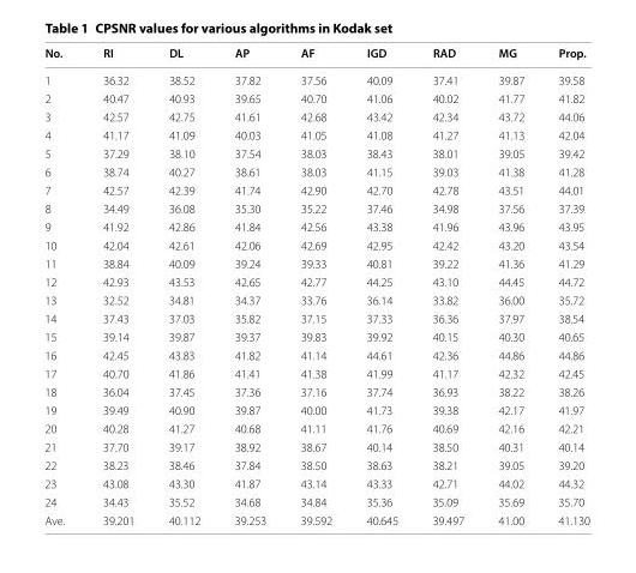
<table><thead><tr><td>No.</td><td>RI</td><td>DL</td><td>AP</td><td>AF</td><td>IGD</td><td>RAD</td><td>MG</td><td>Prop.</td></tr></thead><tbody><tr><td>1</td><td>36.32</td><td>38.52</td><td>37.82</td><td>37.56</td><td>40.09</td><td>37.41</td><td>39.87</td><td>39.58</td></tr><tr><td>2</td><td>40.47</td><td>40.93</td><td>39.65</td><td>40.70</td><td>41.06</td><td>40.02</td><td>41.77</td><td>41.82</td></tr><tr><td>3</td><td>42.57</td><td>42.75</td><td>41.61</td><td>42.68</td><td>43.42</td><td>42.34</td><td>43.72</td><td>44.06</td></tr><tr><td>4</td><td>41.17</td><td>41.09</td><td>40.03</td><td>41.05</td><td>41.08</td><td>41.27</td><td>41.13</td><td>42.04</td></tr><tr><td>5</td><td>37.29</td><td>38.10</td><td>37.54</td><td>38.03</td><td>38.43</td><td>38.01</td><td>39.05</td><td>39.42</td></tr><tr><td>6</td><td>38.74</td><td>40.27</td><td>38.61</td><td>38.03</td><td>41.15</td><td>39.03</td><td>41.38</td><td>41.28</td></tr><tr><td>7</td><td>42.57</td><td>42.39</td><td>41.74</td><td>42.90</td><td>42.70</td><td>42.78</td><td>43.51</td><td>44.01</td></tr><tr><td>8</td><td>34.49</td><td>36.08</td><td>35.30</td><td>35.22</td><td>37.46</td><td>34.98</td><td>37.56</td><td>37.39</td></tr><tr><td>9</td><td>41.92</td><td>42.86</td><td>41.84</td><td>42.56</td><td>43.38</td><td>41.96</td><td>43.96</td><td>43.95</td></tr><tr><td>10</td><td>42.04</td><td>42.61</td><td>42.06</td><td>42.69</td><td>42.95</td><td>42.42</td><td>43.20</td><td>43.54</td></tr><tr><td>11</td><td>38.84</td><td>40.09</td><td>39.24</td><td>39.33</td><td>40.81</td><td>39.22</td><td>41.36</td><td>41.29</td></tr><tr><td>12</td><td>42.93</td><td>43.53</td><td>42.65</td><td>42.77</td><td>44.25</td><td>43.10</td><td>44.45</td><td>44.72</td></tr><tr><td>13</td><td>32.52</td><td>34.81</td><td>34.37</td><td>33.76</td><td>36.14</td><td>33.82</td><td>36.00</td><td>35.72</td></tr><tr><td>14</td><td>37.43</td><td>37.03</td><td>35.82</td><td>37.15</td><td>37.33</td><td>36.36</td><td>37.97</td><td>38.54</td></tr><tr><td>15</td><td>39.14</td><td>39.87</td><td>39.37</td><td>39.83</td><td>39.92</td><td>40.15</td><td>40.30</td><td>40.65</td></tr><tr><td>16</td><td>42.45</td><td>43.83</td><td>41.82</td><td>41.14</td><td>44.61</td><td>42.36</td><td>44.86</td><td>44.86</td></tr><tr><td>17</td><td>40.70</td><td>41.86</td><td>41.41</td><td>41.38</td><td>41.99</td><td>41.17</td><td>42.32</td><td>42.45</td></tr><tr><td>18</td><td>36.04</td><td>37.45</td><td>37.36</td><td>37.16</td><td>37.74</td><td>36.93</td><td>38.22</td><td>38.26</td></tr><tr><td>19</td><td>39.49</td><td>40.90</td><td>39.87</td><td>40.00</td><td>41.73</td><td>39.38</td><td>42.17</td><td>41.97</td></tr><tr><td>20</td><td>40.28</td><td>41.27</td><td>40.68</td><td>41.11</td><td>41.76</td><td>40.69</td><td>42.16</td><td>42.21</td></tr><tr><td>21</td><td>37.70</td><td>39.17</td><td>38.92</td><td>38.67</td><td>40.14</td><td>38.50</td><td>40.31</td><td>40.14</td></tr><tr><td>22</td><td>38.23</td><td>38.46</td><td>37.84</td><td>38.50</td><td>38.63</td><td>38.21</td><td>39.05</td><td>39.20</td></tr><tr><td>23</td><td>43.08</td><td>43.30</td><td>41.87</td><td>43.14</td><td>43.33</td><td>42.71</td><td>44.02</td><td>44.32</td></tr><tr><td>24</td><td>34.43</td><td>35.52</td><td>34.68</td><td>34.84</td><td>35.36</td><td>35.09</td><td>35.69</td><td>35.70</td></tr><tr><td>Ave.</td><td>39.201</td><td>40.112</td><td>39.253</td><td>39.592</td><td>40.645</td><td>39.497</td><td>41.00</td><td>41.130</td></tr></tbody></table>